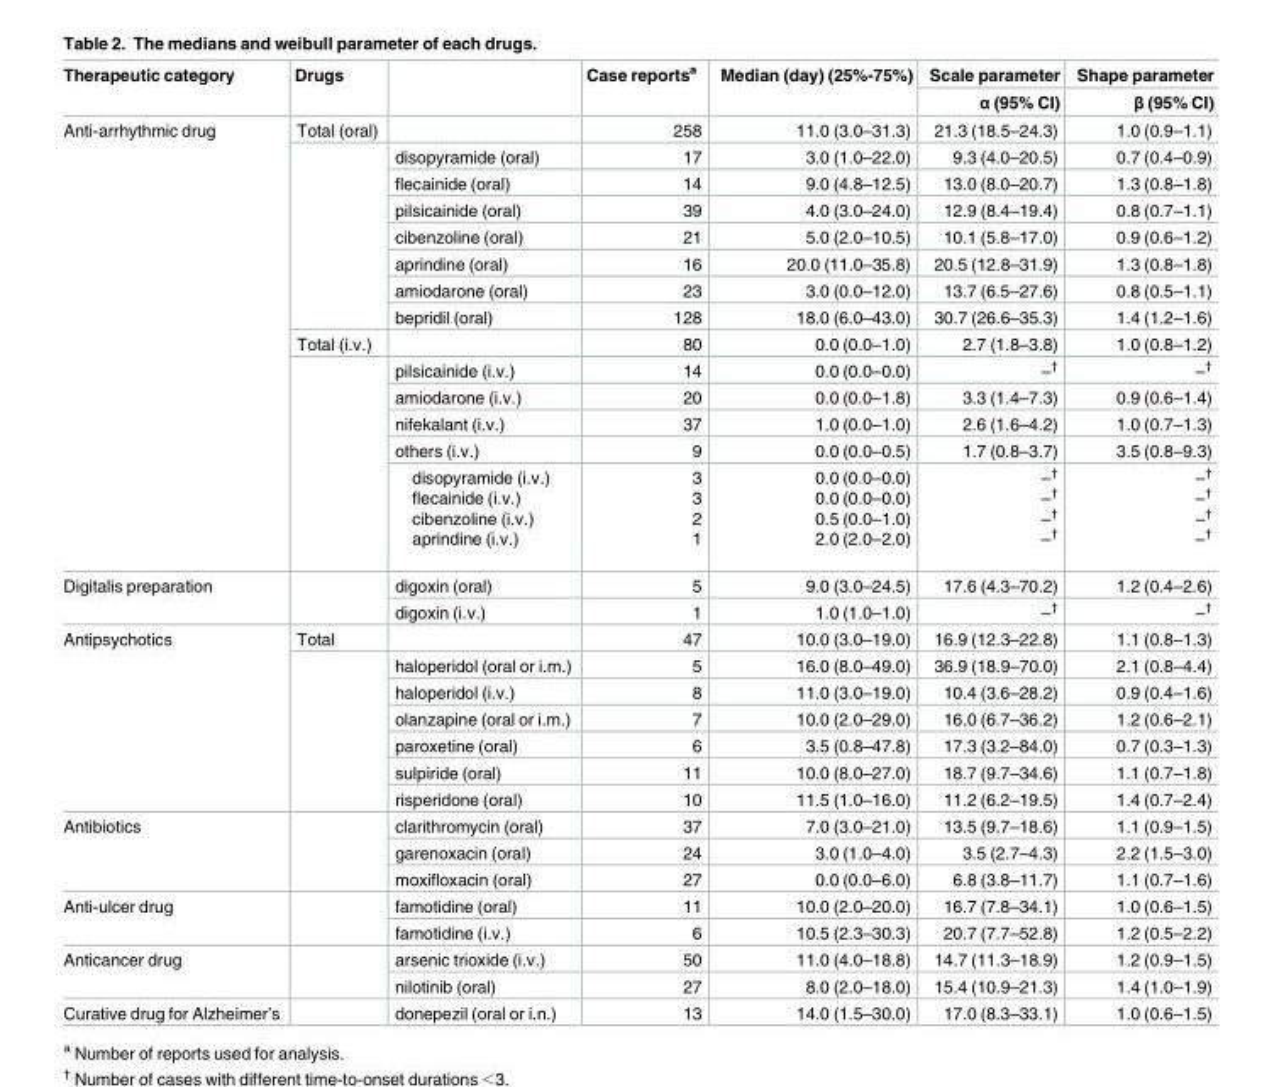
<table><thead><tr><td rowspan="2">Therapeutic category</td><td rowspan="2">Drugs</td><td rowspan="2"></td><td rowspan="2">Case reports<sup>a</sup></td><td rowspan="2">Median (day) (25%-75%)</td><td rowspan="2">Scale parameter α (95% CI)</td><td rowspan="2">Shape parameter β (95% CI)</td></tr><tr></tr></thead><tbody><tr><td rowspan="14">Anti-arrhythmic drug</td><td>Total (oral)</td><td></td><td>258</td><td>11.0 (3.0–31.3)</td><td>21.3 (18.5–24.3)</td><td>1.0 (0.9–1.1)</td></tr><tr><td rowspan="7"></td><td>disopyramide (oral)</td><td>17</td><td>3.0 (1.0–22.0)</td><td>9.3 (4.0–20.5)</td><td>0.7 (0.4–0.9)</td></tr><tr><td>flecainide (oral)</td><td>14</td><td>9.0 (4.8–12.5)</td><td>13.0 (8.0–20.7)</td><td>1.3 (0.8–1.8)</td></tr><tr><td>pilsicainide (oral)</td><td>39</td><td>4.0 (3.0–24.0)</td><td>12.9 (8.4–19.4)</td><td>0.8 (0.7–1.1)</td></tr><tr><td>cibenzoline (oral)</td><td>21</td><td>5.0 (2.0–10.5)</td><td>10.1 (5.8–17.0)</td><td>0.9 (0.6–1.2)</td></tr><tr><td>aprindine (oral)</td><td>16</td><td>20.0 (11.0–35.8)</td><td>20.5 (12.8–31.9)</td><td>1.3 (0.8–1.8)</td></tr><tr><td>amiodarone (oral)</td><td>23</td><td>3.0 (0.0–12.0)</td><td>13.7 (6.5–27.6)</td><td>0.8 (0.5–1.1)</td></tr><tr><td>bepridil (oral)</td><td>128</td><td>18.0 (6.0–43.0)</td><td>30.7 (26.6–35.3)</td><td>1.4 (1.2–1.6)</td></tr><tr><td>Total (i.v.)</td><td></td><td>80</td><td>0.0 (0.0–1.0)</td><td>2.7 (1.8–3.8)</td><td>1.0 (0.8–1.2)</td></tr><tr><td rowspan="5"></td><td>pilsicainide (i.v.)</td><td>14</td><td>0.0 (0.0–0.0)</td><td>–<sup>†</sup></td><td>–<sup>†</sup></td></tr><tr><td>amiodarone (i.v.)</td><td>20</td><td>0.0 (0.0–1.8)</td><td>3.3 (1.4–7.3)</td><td>0.9 (0.6–1.4)</td></tr><tr><td>nifekalant (i.v.)</td><td>37</td><td>1.0 (0.0–1.0)</td><td>2.6 (1.6–4.2)</td><td>1.0 (0.7–1.3)</td></tr><tr><td>others (i.v.)</td><td>9</td><td>0.0 (0.0–0.5)</td><td>1.7 (0.8–3.7)</td><td>3.5 (0.8–9.3)</td></tr><tr><td>disopyramide (i.v.) flecainide (i.v.) cibenzoline (i.v.) aprindine (i.v.)</td><td>3 3 2 1</td><td>0.0 (0.0–0.0) 0.0 (0.0–0.0) 0.5 (0.0–1.0) 2.0 (2.0–2.0)</td><td>–<sup>†</sup> –<sup>†</sup> –<sup>†</sup> –<sup>†</sup></td><td>–<sup>†</sup> –<sup>†</sup> –<sup>†</sup> –<sup>†</sup></td></tr><tr><td rowspan="2">Digitalis preparation</td><td rowspan="2"></td><td>digoxin (oral)</td><td>5</td><td>9.0 (3.0–24.5)</td><td>17.6 (4.3–70.2)</td><td>1.2 (0.4–2.6)</td></tr><tr><td>digoxin (i.v.)</td><td>1</td><td>1.0 (1.0–1.0)</td><td>–<sup>†</sup></td><td>–<sup>†</sup></td></tr><tr><td rowspan="7">Antipsychotics</td><td>Total</td><td></td><td>47</td><td>10.0 (3.0–19.0)</td><td>16.9 (12.3–22.8)</td><td>1.1 (0.8–1.3)</td></tr><tr><td rowspan="6"></td><td>haloperidol (oral or i.m.)</td><td>5</td><td>16.0 (8.0–49.0)</td><td>36.9 (18.9–70.0)</td><td>2.1 (0.8–4.4)</td></tr><tr><td>haloperidol (i.v.)</td><td>8</td><td>11.0 (3.0–19.0)</td><td>10.4 (3.6–28.2)</td><td>0.9 (0.4–1.6)</td></tr><tr><td>olanzapine (oral or i.m.)</td><td>7</td><td>10.0 (2.0–29.0)</td><td>16.0 (6.7–36.2)</td><td>1.2 (0.6–2.1)</td></tr><tr><td>paroxetine (oral)</td><td>6</td><td>3.5 (0.8–47.8)</td><td>17.3 (3.2–84.0)</td><td>0.7 (0.3–1.3)</td></tr><tr><td>sulpiride (oral)</td><td>11</td><td>10.0 (8.0–27.0)</td><td>18.7 (9.7–34.6)</td><td>1.1 (0.7–1.8)</td></tr><tr><td>risperidone (oral)</td><td>10</td><td>11.5 (1.0–16.0)</td><td>11.2 (6.2–19.5)</td><td>1.4 (0.7–2.4)</td></tr><tr><td rowspan="3">Antibiotics</td><td rowspan="3"></td><td>clarithromycin (oral)</td><td>37</td><td>7.0 (3.0–21.0)</td><td>13.5 (9.7–18.6)</td><td>1.1 (0.9–1.5)</td></tr><tr><td>garenoxacin (oral)</td><td>24</td><td>3.0 (1.0–4.0)</td><td>3.5 (2.7–4.3)</td><td>2.2 (1.5–3.0)</td></tr><tr><td>moxifloxacin (oral)</td><td>27</td><td>0.0 (0.0–6.0)</td><td>6.8 (3.8–11.7)</td><td>1.1 (0.7–1.6)</td></tr><tr><td rowspan="2">Anti-ulcer drug</td><td rowspan="2"></td><td>famotidine (oral)</td><td>11</td><td>10.0 (2.0–20.0)</td><td>16.7 (7.8–34.1)</td><td>1.0 (0.6–1.5)</td></tr><tr><td>famotidine (i.v.)</td><td>6</td><td>10.5 (2.3–30.3)</td><td>20.7 (7.7–52.8)</td><td>1.2 (0.5–2.2)</td></tr><tr><td rowspan="2">Anticancer drug</td><td rowspan="2"></td><td>arsenic trioxide (i.v.)</td><td>50</td><td>11.0 (4.0–18.8)</td><td>14.7 (11.3–18.9)</td><td>1.2 (0.9–1.5)</td></tr><tr><td>nilotinib (oral)</td><td>27</td><td>8.0 (2.0–18.0)</td><td>15.4 (10.9–21.3)</td><td>1.4 (1.0–1.9)</td></tr><tr><td>Curative drug for Alzheimer’s</td><td></td><td>donepezil (oral or i.n.)</td><td>13</td><td>14.0 (1.5–30.0)</td><td>17.0 (8.3–33.1)</td><td>1.0 (0.6–1.5)</td></tr></tbody></table>